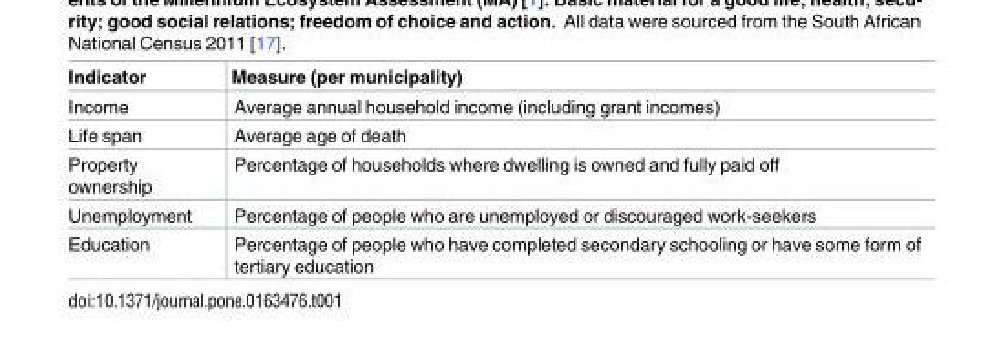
<table><thead><tr><td>Indicator</td><td>Measure (per municipality)</td></tr></thead><tbody><tr><td>Income</td><td>Average annual household income (including grant incomes)</td></tr><tr><td>Life span</td><td>Average age of death</td></tr><tr><td>Property ownership</td><td>Percentage of households where dwelling is owned and fully paid off</td></tr><tr><td>Unemployment</td><td>Percentage of people who are unemployed or discouraged work-seekers</td></tr><tr><td>Education</td><td>Percentage of people who have completed secondary schooling or have some form of tertiary education</td></tr></tbody></table>